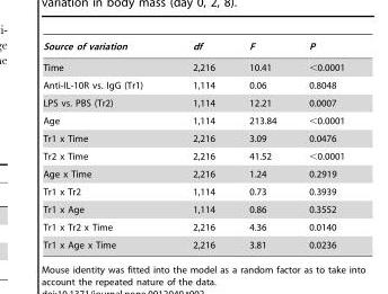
<table><thead><tr><td>Source of variation</td><td>df</td><td>F</td><td>P</td></tr></thead><tbody><tr><td>Time</td><td>2,216</td><td>10.41</td><td>&lt;0.0001</td></tr><tr><td>Anti-IL-10R vs. IgG (Tr1)</td><td>1,114</td><td>0.06</td><td>0.8048</td></tr><tr><td>LPS vs. PBS (Tr2)</td><td>1,114</td><td>12.21</td><td>0.0007</td></tr><tr><td>Age</td><td>1,114</td><td>213.84</td><td>&lt;0.0001</td></tr><tr><td>Tr1 x Time</td><td>2,216</td><td>3.09</td><td>0.0476</td></tr><tr><td>Tr2 x Time</td><td>2,216</td><td>41.52</td><td>&lt;0.0001</td></tr><tr><td>Age x Time</td><td>2,216</td><td>1.24</td><td>0.2919</td></tr><tr><td>Tr1 x Tr2</td><td>1,114</td><td>0.73</td><td>0.3939</td></tr><tr><td>Tr1 x Age</td><td>1,114</td><td>0.86</td><td>0.3552</td></tr><tr><td>Tr1 x Tr2 x Time</td><td>2,216</td><td>4.36</td><td>0.0140</td></tr><tr><td>Tr1 x Age x Time</td><td>2,216</td><td>3.81</td><td>0.0236</td></tr></tbody></table>